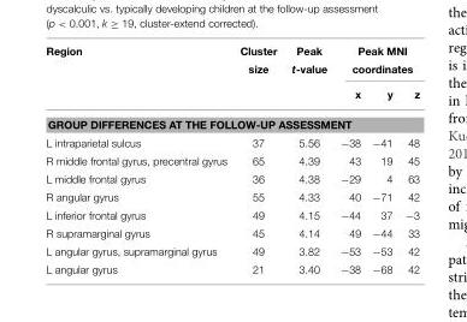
<table><thead><tr><td rowspan="3">Region</td><td rowspan="3">Cluster size</td><td rowspan="3">Peak t-value</td><td rowspan="2" colspan="3">Peak MNI coordinates</td></tr><tr></tr><tr><td>x</td><td>y</td><td>z</td></tr></thead><tbody><tr><td colspan="6">GROUP DIFFERENCES AT THE FOLLOW-UP ASSESSMENT</td></tr><tr><td>L intraparietal sulcus</td><td>37</td><td>5.56</td><td>−38</td><td>−41</td><td>48</td></tr><tr><td>R middle frontal gyrus, precentral gyrus</td><td>65</td><td>4.39</td><td>43</td><td>19</td><td>45</td></tr><tr><td>L middle frontal gyrus</td><td>36</td><td>4.38</td><td>−29</td><td>4</td><td>63</td></tr><tr><td>R angular gyrus</td><td>55</td><td>4.33</td><td>40</td><td>−71</td><td>42</td></tr><tr><td>L inferior frontal gyrus</td><td>49</td><td>4.15</td><td>−44</td><td>37</td><td>−3</td></tr><tr><td>R supramarginal gyrus</td><td>45</td><td>4.14</td><td>49</td><td>−44</td><td>33</td></tr><tr><td>L angular gyrus, supramarginal gyrus</td><td>49</td><td>3.82</td><td>−53</td><td>−53</td><td>42</td></tr><tr><td>L angular gyrus</td><td>21</td><td>3.40</td><td>−38</td><td>−68</td><td>42</td></tr></tbody></table>